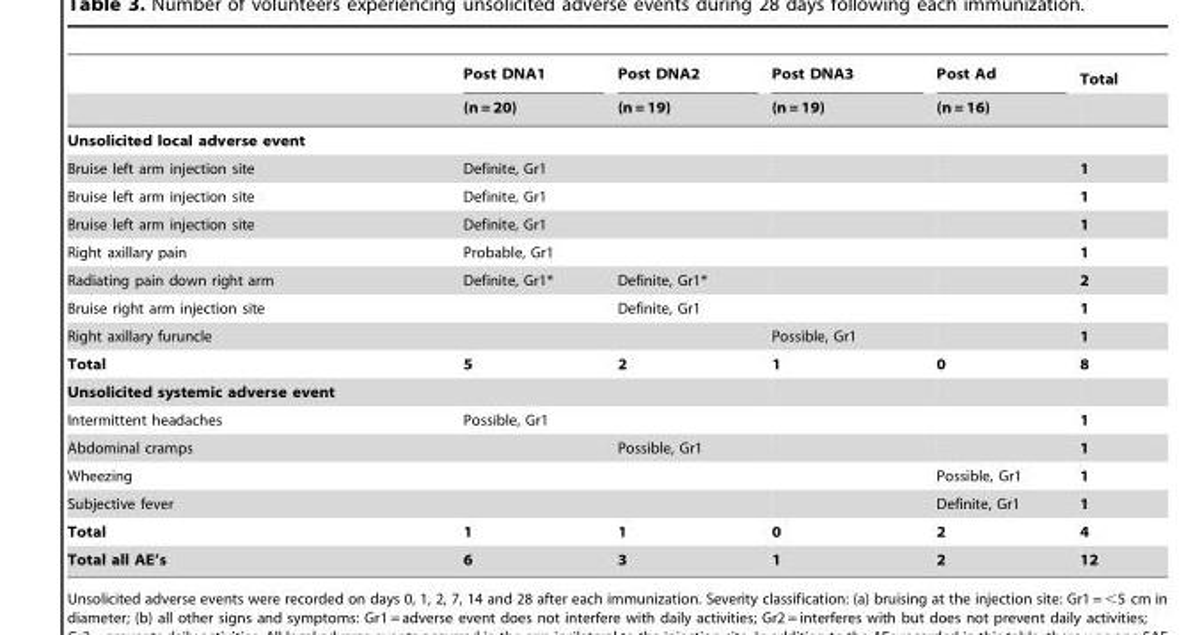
<table><thead><tr><td rowspan="2"></td><td rowspan="2">Post DNA1 (n = 20)</td><td rowspan="2">Post DNA2 (n = 19)</td><td rowspan="2">Post DNA3 (n = 19)</td><td rowspan="2">Post Ad (n = 16)</td><td rowspan="2">Total</td></tr><tr></tr></thead><tbody><tr><td colspan="6">Unsolicited local adverse event</td></tr><tr><td>Bruise left arm injection site</td><td>Definite, Gr1</td><td></td><td></td><td></td><td>1</td></tr><tr><td>Bruise left arm injection site</td><td>Definite, Gr1</td><td></td><td></td><td></td><td>1</td></tr><tr><td>Bruise left arm injection site</td><td>Definite, Gr1</td><td></td><td></td><td></td><td>1</td></tr><tr><td>Right axillary pain</td><td>Probable, Gr1</td><td></td><td></td><td></td><td>1</td></tr><tr><td>Radiating pain down right arm</td><td>Definite, Gr1*</td><td>Definite, Gr1*</td><td></td><td></td><td>2</td></tr><tr><td>Bruise right arm injection site</td><td></td><td>Definite, Gr1</td><td></td><td></td><td>1</td></tr><tr><td>Right axillary furuncle</td><td></td><td></td><td>Possible, Gr1</td><td></td><td>1</td></tr><tr><td>Total</td><td>5</td><td>2</td><td>1</td><td>0</td><td>8</td></tr><tr><td colspan="6">Unsolicited systemic adverse event</td></tr><tr><td>Intermittent headaches</td><td>Possible, Gr1</td><td></td><td></td><td></td><td>1</td></tr><tr><td>Abdominal cramps</td><td></td><td>Possible, Gr1</td><td></td><td></td><td>1</td></tr><tr><td>Wheezing</td><td></td><td></td><td></td><td>Possible, Gr1</td><td>1</td></tr><tr><td>Subjective fever</td><td></td><td></td><td></td><td>Definite, Gr1</td><td>1</td></tr><tr><td>Total</td><td>1</td><td>1</td><td>0</td><td>2</td><td>4</td></tr><tr><td>Total all AE’s</td><td>6</td><td>3</td><td>1</td><td>2</td><td>12</td></tr></tbody></table>